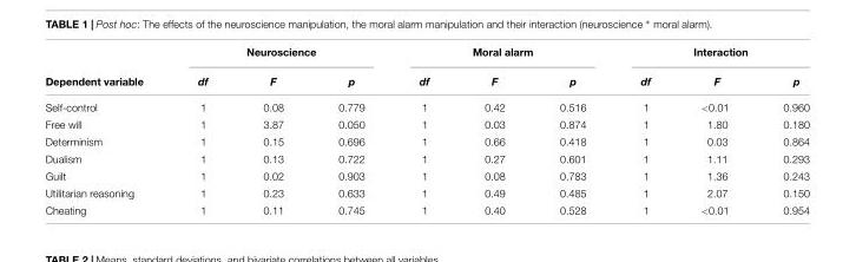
<table><thead><tr><td rowspan="2">Dependent variable</td><td colspan="3">Neuroscience</td><td colspan="3">Moral alarm</td><td colspan="3">Interaction</td></tr><tr><td>df</td><td>F</td><td>p</td><td>df</td><td>F</td><td>p</td><td>df</td><td>F</td><td>p</td></tr></thead><tbody><tr><td>Self-control</td><td>1</td><td>0.08</td><td>0.779</td><td>1</td><td>0.42</td><td>0.516</td><td>1</td><td>&lt;0.01</td><td>0.960</td></tr><tr><td>Free will</td><td>1</td><td>3.87</td><td>0.050</td><td>1</td><td>0.03</td><td>0.874</td><td>1</td><td>1.80</td><td>0.180</td></tr><tr><td>Determinism</td><td>1</td><td>0.15</td><td>0.696</td><td>1</td><td>0.66</td><td>0.418</td><td>1</td><td>0.03</td><td>0.864</td></tr><tr><td>Dualism</td><td>1</td><td>0.13</td><td>0.722</td><td>1</td><td>0.27</td><td>0.601</td><td>1</td><td>1.11</td><td>0.293</td></tr><tr><td>Guilt</td><td>1</td><td>0.02</td><td>0.903</td><td>1</td><td>0.08</td><td>0.783</td><td>1</td><td>1.36</td><td>0.243</td></tr><tr><td>Utilitarian reasoning</td><td>1</td><td>0.23</td><td>0.633</td><td>1</td><td>0.49</td><td>0.485</td><td>1</td><td>2.07</td><td>0.150</td></tr><tr><td>Cheating</td><td>1</td><td>0.11</td><td>0.745</td><td>1</td><td>0.40</td><td>0.528</td><td>1</td><td>&lt;0.01</td><td>0.954</td></tr></tbody></table>